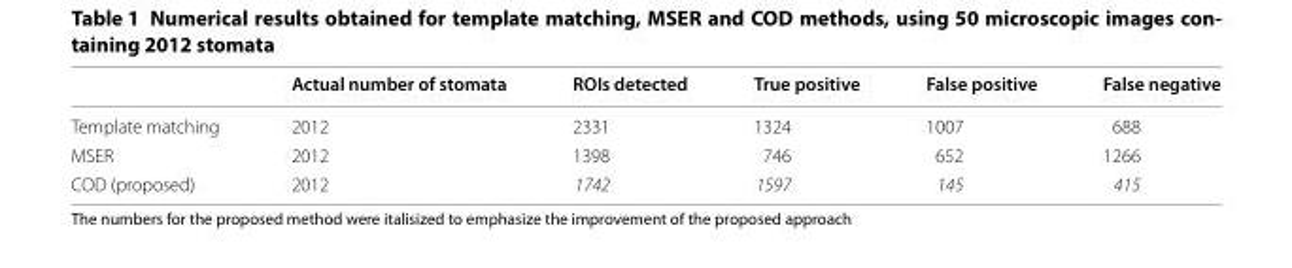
<table><thead><tr><td></td><td>Actual number of stomata</td><td>ROIs detected</td><td>True positive</td><td>False positive</td><td>False negative</td></tr></thead><tbody><tr><td>Template matching</td><td>2012</td><td>2331</td><td>1324</td><td>1007</td><td>688</td></tr><tr><td>MSER</td><td>2012</td><td>1398</td><td>746</td><td>652</td><td>1266</td></tr><tr><td>COD (proposed)</td><td>2012</td><td>1742</td><td>1597</td><td>145</td><td>415</td></tr></tbody></table>